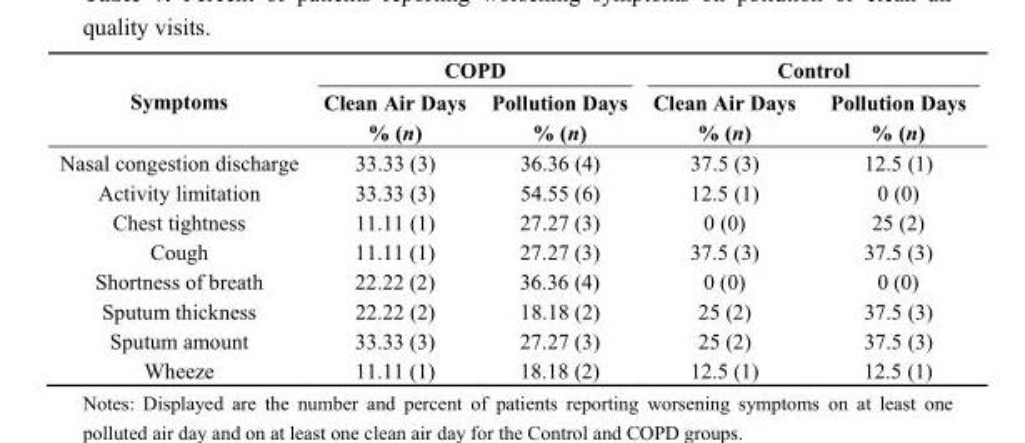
<table><thead><tr><td rowspan="3">Symptoms</td><td colspan="2">COPD</td><td colspan="2">Control</td></tr><tr><td rowspan="2">Clean Air Days % (n)</td><td rowspan="2">Pollution Days % (n)</td><td rowspan="2">Clean Air Days % (n)</td><td rowspan="2">Pollution Days % (n)</td></tr><tr></tr></thead><tbody><tr><td>Nasal congestion discharge</td><td>33.33 (3)</td><td>36.36 (4)</td><td>37.5 (3)</td><td>12.5 (1)</td></tr><tr><td>Activity limitation</td><td>33.33 (3)</td><td>54.55 (6)</td><td>12.5 (1)</td><td>0 (0)</td></tr><tr><td>Chest tightness</td><td>11.11 (1)</td><td>27.27 (3)</td><td>0 (0)</td><td>25 (2)</td></tr><tr><td>Cough</td><td>11.11 (1)</td><td>27.27 (3)</td><td>37.5 (3)</td><td>37.5 (3)</td></tr><tr><td>Shortness of breath</td><td>22.22 (2)</td><td>36.36 (4)</td><td>0 (0)</td><td>0 (0)</td></tr><tr><td>Sputum thickness</td><td>22.22 (2)</td><td>18.18 (2)</td><td>25 (2)</td><td>37.5 (3)</td></tr><tr><td>Sputum amount</td><td>33.33 (3)</td><td>27.27 (3)</td><td>25 (2)</td><td>37.5 (3)</td></tr><tr><td>Wheeze</td><td>11.11 (1)</td><td>18.18 (2)</td><td>12.5 (1)</td><td>12.5 (1)</td></tr></tbody></table>